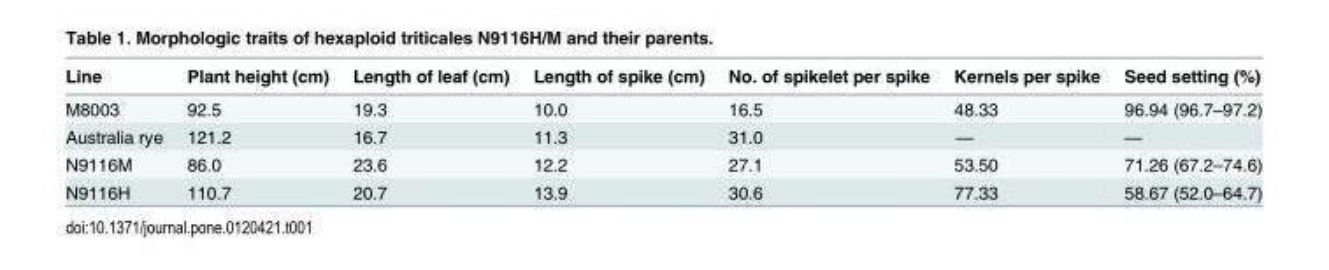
<table><thead><tr><td>Line</td><td>Plant height (cm)</td><td>Length of leaf (cm)</td><td>Length of spike (cm)</td><td>No. of spikelet per spike</td><td>Kernels per spike</td><td>Seed setting (%)</td></tr></thead><tbody><tr><td>M8003</td><td>92.5</td><td>19.3</td><td>10.0</td><td>16.5</td><td>48.33</td><td>96.94 (96.7–97.2)</td></tr><tr><td>Australia rye</td><td>121.2</td><td>16.7</td><td>11.3</td><td>31.0</td><td>—</td><td>—</td></tr><tr><td>N9116M</td><td>86.0</td><td>23.6</td><td>12.2</td><td>27.1</td><td>53.50</td><td>71.26 (67.2–74.6)</td></tr><tr><td>N9116H</td><td>110.7</td><td>20.7</td><td>13.9</td><td>30.6</td><td>77.33</td><td>58.67 (52.0–64.7)</td></tr></tbody></table>